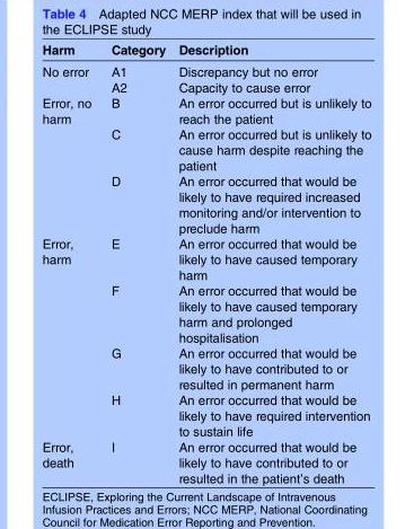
<table><thead><tr><td>Harm</td><td>Category</td><td>Description</td></tr></thead><tbody><tr><td rowspan="2">No error</td><td>A1</td><td>Discrepancy but no error</td></tr><tr><td>A2</td><td>Capacity to cause error</td></tr><tr><td rowspan="3">Error, no harm</td><td>B</td><td>An error occurred but is unlikely to reach the patient</td></tr><tr><td>C</td><td>An error occurred but is unlikely to cause harm despite reaching the patient</td></tr><tr><td>D</td><td>An error occurred that would be likely to have required increased monitoring and/or intervention to preclude harm</td></tr><tr><td rowspan="4">Error, harm</td><td>E</td><td>An error occurred that would be likely to have caused temporary harm</td></tr><tr><td>F</td><td>An error occurred that would be likely to have caused temporary harm and prolonged hospitalisation</td></tr><tr><td>G</td><td>An error occurred that would be likely to have contributed to or resulted in permanent harm</td></tr><tr><td>H</td><td>An error occurred that would be likely to have required intervention to sustain life</td></tr><tr><td>Error, death</td><td>I</td><td>An error occurred that would be likely to have contributed to or resulted in the patient’s death</td></tr></tbody></table>